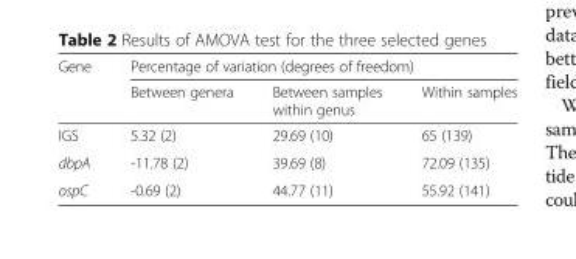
<table><thead><tr><td rowspan="2">Gene</td><td colspan="3">Percentage of variation (degrees of freedom)</td></tr><tr><td>Between genera</td><td>Between samples within genus</td><td>Within samples</td></tr></thead><tbody><tr><td>IGS</td><td>5.32 (2)</td><td>29.69 (10)</td><td>65 (139)</td></tr><tr><td>dbpA</td><td>-11.78 (2)</td><td>39.69 (8)</td><td>72.09 (135)</td></tr><tr><td>ospC</td><td>-0.69 (2)</td><td>44.77 (11)</td><td>55.92 (141)</td></tr></tbody></table>